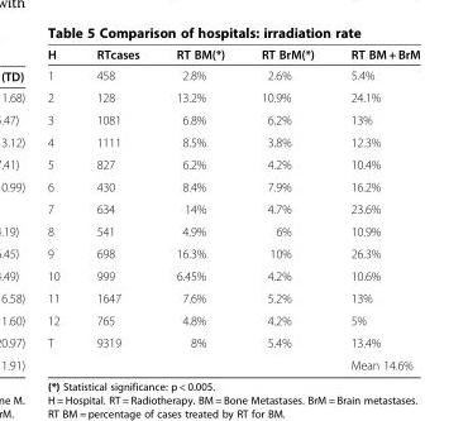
<table><thead><tr><td>H</td><td>RTcases</td><td>RT BM(*)</td><td>RT BrM(*)</td><td>RT BM + BrM</td></tr></thead><tbody><tr><td>1</td><td>458</td><td>2.8%</td><td>2.6%</td><td>5.4%</td></tr><tr><td>2</td><td>128</td><td>13.2%</td><td>10.9%</td><td>24.1%</td></tr><tr><td>3</td><td>1081</td><td>6.8%</td><td>6.2%</td><td>13%</td></tr><tr><td>4</td><td>1111</td><td>8.5%</td><td>3.8%</td><td>12.3%</td></tr><tr><td>5</td><td>827</td><td>6.2%</td><td>4.2%</td><td>10.4%</td></tr><tr><td>6</td><td>430</td><td>8.4%</td><td>7.9%</td><td>16.2%</td></tr><tr><td>7</td><td>634</td><td>14%</td><td>4.7%</td><td>23.6%</td></tr><tr><td>8</td><td>541</td><td>4.9%</td><td>6%</td><td>10.9%</td></tr><tr><td>9</td><td>698</td><td>16.3%</td><td>10%</td><td>26.3%</td></tr><tr><td>10</td><td>999</td><td>6.45%</td><td>4.2%</td><td>10.6%</td></tr><tr><td>11</td><td>1647</td><td>7.6%</td><td>5.2%</td><td>13%</td></tr><tr><td>12</td><td>765</td><td>4.8%</td><td>4.2%</td><td>5%</td></tr><tr><td rowspan="2">T</td><td>9319</td><td>8%</td><td>5.4%</td><td>13.4%</td></tr><tr><td></td><td></td><td></td><td>Mean 14.6%</td></tr></tbody></table>